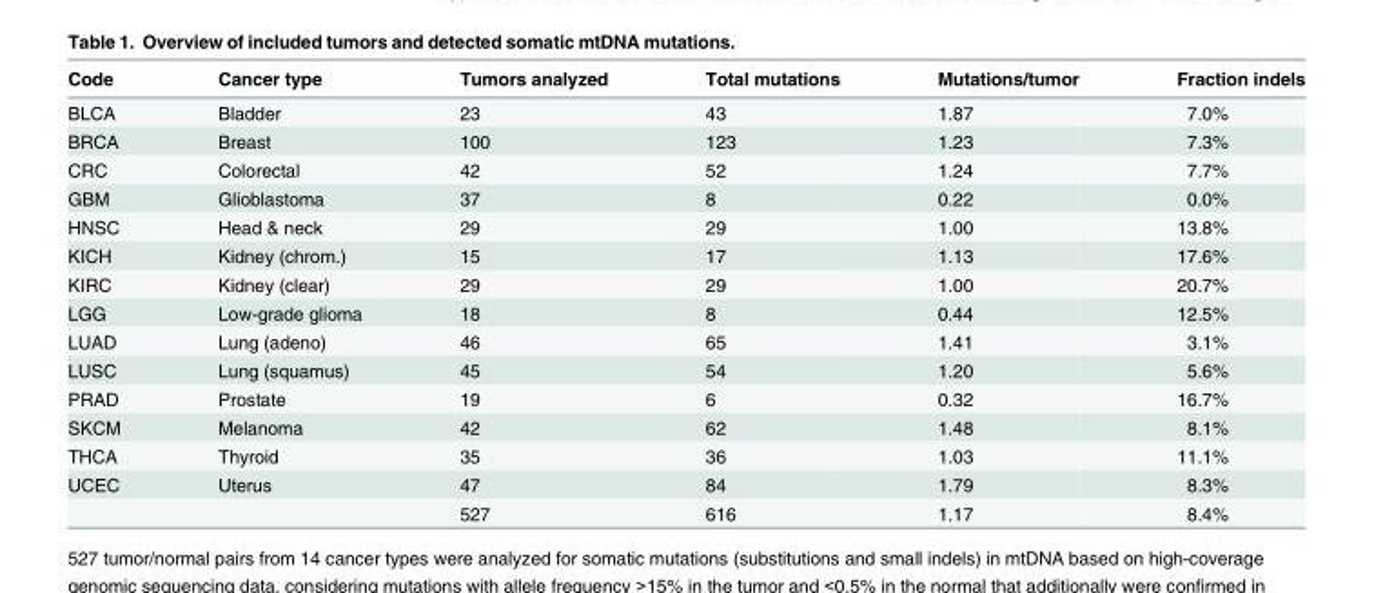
<table><thead><tr><td>Code</td><td>Cancer type</td><td>Tumors analyzed</td><td>Total mutations</td><td>Mutations/tumor</td><td>Fraction indels</td></tr></thead><tbody><tr><td>BLCA</td><td>Bladder</td><td>23</td><td>43</td><td>1.87</td><td>7.0%</td></tr><tr><td>BRCA</td><td>Breast</td><td>100</td><td>123</td><td>1.23</td><td>7.3%</td></tr><tr><td>CRC</td><td>Colorectal</td><td>42</td><td>52</td><td>1.24</td><td>7.7%</td></tr><tr><td>GBM</td><td>Glioblastoma</td><td>37</td><td>8</td><td>0.22</td><td>0.0%</td></tr><tr><td>HNSC</td><td>Head &amp; neck</td><td>29</td><td>29</td><td>1.00</td><td>13.8%</td></tr><tr><td>KICH</td><td>Kidney (chrom.)</td><td>15</td><td>17</td><td>1.13</td><td>17.6%</td></tr><tr><td>KIRC</td><td>Kidney (clear)</td><td>29</td><td>29</td><td>1.00</td><td>20.7%</td></tr><tr><td>LGG</td><td>Low-grade glioma</td><td>18</td><td>8</td><td>0.44</td><td>12.5%</td></tr><tr><td>LUAD</td><td>Lung (adeno)</td><td>46</td><td>65</td><td>1.41</td><td>3.1%</td></tr><tr><td>LUSC</td><td>Lung (squamus)</td><td>45</td><td>54</td><td>1.20</td><td>5.6%</td></tr><tr><td>PRAD</td><td>Prostate</td><td>19</td><td>6</td><td>0.32</td><td>16.7%</td></tr><tr><td>SKCM</td><td>Melanoma</td><td>42</td><td>62</td><td>1.48</td><td>8.1%</td></tr><tr><td>THCA</td><td>Thyroid</td><td>35</td><td>36</td><td>1.03</td><td>11.1%</td></tr><tr><td rowspan="2">UCEC</td><td>Uterus</td><td>47</td><td>84</td><td>1.79</td><td>8.3%</td></tr><tr><td></td><td>527</td><td>616</td><td>1.17</td><td>8.4%</td></tr></tbody></table>